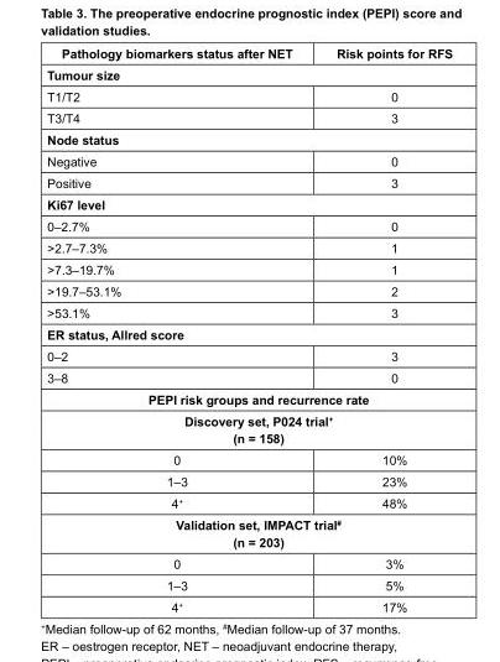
<table><thead><tr><td>Pathology biomarkers status after NET</td><td>Risk points for RFS</td></tr></thead><tbody><tr><td colspan="2">Tumour size</td></tr><tr><td>T1/T2</td><td>0</td></tr><tr><td>T3/T4</td><td>3</td></tr><tr><td colspan="2">Node status</td></tr><tr><td>Negative</td><td>0</td></tr><tr><td>Positive</td><td>3</td></tr><tr><td colspan="2">Ki67 level</td></tr><tr><td>0–2.7%</td><td>0</td></tr><tr><td>&gt;2.7–7.3%</td><td>1</td></tr><tr><td>&gt;7.3–19.7%</td><td>1</td></tr><tr><td>&gt;19.7–53.1%</td><td>2</td></tr><tr><td>&gt;53.1%</td><td>3</td></tr><tr><td colspan="2">ER status, Allred score</td></tr><tr><td>0–2</td><td>3</td></tr><tr><td>3–8</td><td>0</td></tr><tr><td colspan="2">PEPI risk groups and recurrence rate</td></tr><tr><td colspan="2">Discovery set, P024 trial<sup>+</sup> (n = 158)</td></tr><tr><td>0</td><td>10%</td></tr><tr><td>1–3</td><td>23%</td></tr><tr><td>4<sup>+</sup></td><td>48%</td></tr><tr><td colspan="2">Validation set, IMPACT trial<sup>#</sup> (n = 203)</td></tr><tr><td>0</td><td>3%</td></tr><tr><td>1–3</td><td>5%</td></tr><tr><td>4<sup>+</sup></td><td>17%</td></tr></tbody></table>